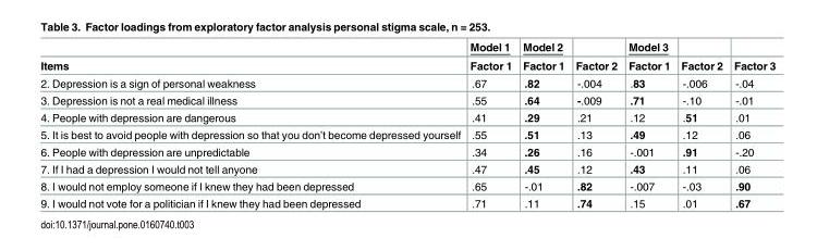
<table><thead><tr><td rowspan="2">Items</td><td rowspan="2">Model 1 Factor 1</td><td rowspan="2">Model 2 Factor 1</td><td rowspan="2">Factor 2</td><td rowspan="2">Model 3 Factor 1</td><td rowspan="2">Factor 2</td><td rowspan="2">Factor 3</td></tr><tr></tr></thead><tbody><tr><td>2. Depression is a sign of personal weakness</td><td>.67</td><td>.82</td><td>-.004</td><td>.83</td><td>-.006</td><td>-.04</td></tr><tr><td>3. Depression is not a real medical illness</td><td>.55</td><td>.64</td><td>-.009</td><td>.71</td><td>-.10</td><td>-.01</td></tr><tr><td>4. People with depression are dangerous</td><td>.41</td><td>.29</td><td>.21</td><td>.12</td><td>.51</td><td>.01</td></tr><tr><td>5. It is best to avoid people with depression so that you don’t become depressed yourself</td><td>.55</td><td>.51</td><td>.13</td><td>.49</td><td>.12</td><td>.06</td></tr><tr><td>6. People with depression are unpredictable</td><td>.34</td><td>.26</td><td>.16</td><td>-.001</td><td>.91</td><td>-.20</td></tr><tr><td>7. If I had a depression I would not tell anyone</td><td>.47</td><td>.45</td><td>.12</td><td>.43</td><td>.11</td><td>.06</td></tr><tr><td>8. I would not employ someone if I knew they had been depressed</td><td>.65</td><td>-.01</td><td>.82</td><td>-.007</td><td>-.03</td><td>.90</td></tr><tr><td>9. I would not vote for a politician if I knew they had been depressed</td><td>.71</td><td>.11</td><td>.74</td><td>.15</td><td>.01</td><td>.67</td></tr></tbody></table>